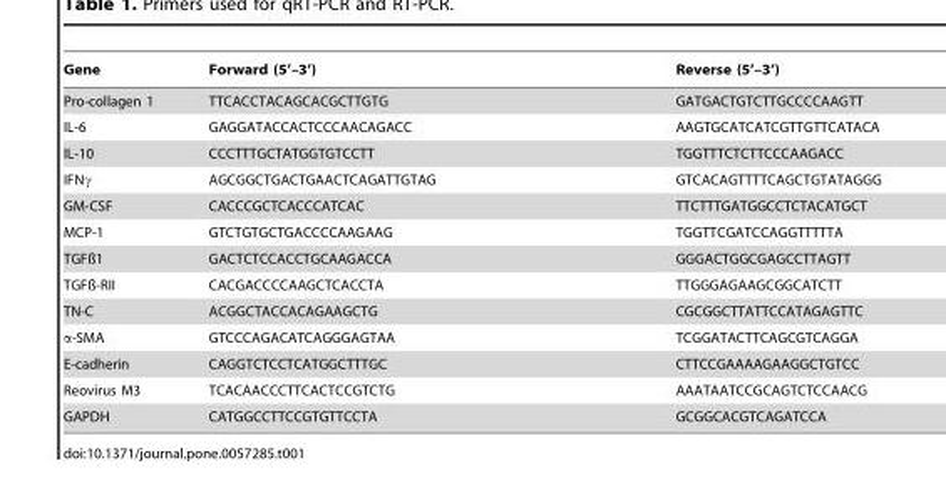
<table><thead><tr><td>Gene</td><td>Forward (5’–3’)</td><td>Reverse (5’–3’)</td></tr></thead><tbody><tr><td>Pro-collagen 1</td><td>TTCACCTACAGCACGCTTGTG</td><td>GATGACTGTCTTGCCCCAAGTT</td></tr><tr><td>IL-6</td><td>GAGGATACCACTCCCAACAGACC</td><td>AAGTGCATCATCGTTGTTCATACA</td></tr><tr><td>IL-10</td><td>CCCTTTGCTATGGTGTCCTT</td><td>TGGTTTCTCTTCCCAAGACC</td></tr><tr><td>IFNγ</td><td>AGCGGCTGACTGAACTCAGATTGTAG</td><td>GTCACAGTTTTCAGCTGTATAGGG</td></tr><tr><td>GM-CSF</td><td>CACCCGCTCACCCATCAC</td><td>TTCTTTGATGGCCTCTACATGCT</td></tr><tr><td>MCP-1</td><td>GTCTGTGCTGACCCCAAGAAG</td><td>TGGTTCGATCCAGGTTTTTA</td></tr><tr><td>TGFß1</td><td>GACTCTCCACCTGCAAGACCA</td><td>GGGACTGGCGAGCCTTAGTT</td></tr><tr><td>TGFß-RII</td><td>CACGACCCCAAGCTCACCTA</td><td>TTGGGAGAAGCGGCATCTT</td></tr><tr><td>TN-C</td><td>ACGGCTACCACAGAAGCTG</td><td>CGCGGCTTATTCCATAGAGTTC</td></tr><tr><td>α-SMA</td><td>GTCCCAGACATCAGGGAGTAA</td><td>TCGGATACTTCAGCGTCAGGA</td></tr><tr><td>E-cadherin</td><td>CAGGTCTCCTCATGGCTTTGC</td><td>CTTCCGAAAAGAAGGCTGTCC</td></tr><tr><td>Reovirus M3</td><td>TCACAACCCTTCACTCCGTCTG</td><td>AAATAATCCGCAGTCTCCAACG</td></tr><tr><td>GAPDH</td><td>CATGGCCTTCCGTGTTCCTA</td><td>GCGGCACGTCAGATCCA</td></tr></tbody></table>